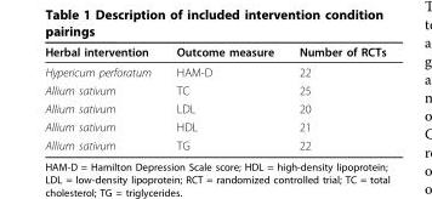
<table><thead><tr><td>Herbal intervention</td><td>Outcome measure</td><td>Number of RCTs</td></tr></thead><tbody><tr><td>Hypericum perforatum</td><td>HAM-D</td><td>22</td></tr><tr><td>Allium sativum</td><td>TC</td><td>25</td></tr><tr><td>Allium sativum</td><td>LDL</td><td>20</td></tr><tr><td>Allium sativum</td><td>HDL</td><td>21</td></tr><tr><td>Allium sativum</td><td>TG</td><td>22</td></tr></tbody></table>